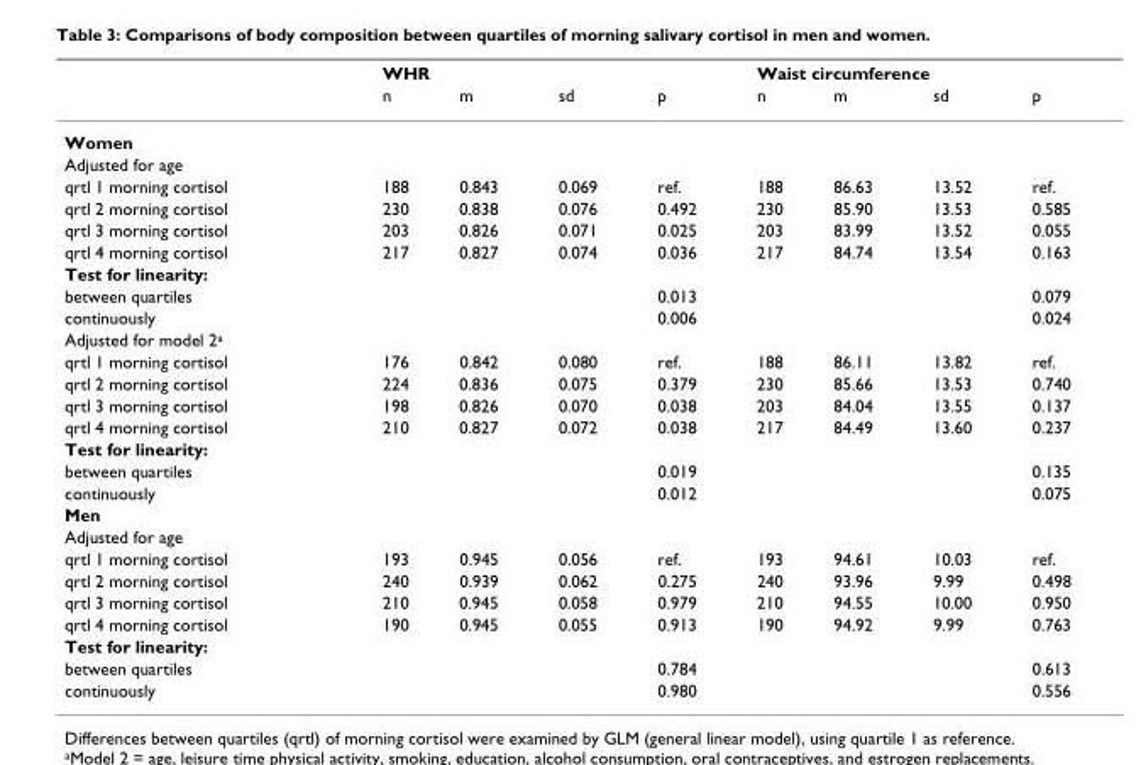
<table><thead><tr><td rowspan="2"></td><td colspan="4">WHR</td><td colspan="4">Waist circumference</td></tr><tr><td>n</td><td>m</td><td>sd</td><td>p</td><td>n</td><td>m</td><td>sd</td><td>p</td></tr></thead><tbody><tr><td colspan="9">Women</td></tr><tr><td colspan="9">Adjusted for age</td></tr><tr><td>qrtl 1 morning cortisol</td><td>188</td><td>0.843</td><td>0.069</td><td>ref.</td><td>188</td><td>86.63</td><td>13.52</td><td>ref.</td></tr><tr><td>qrtl 2 morning cortisol</td><td>230</td><td>0.838</td><td>0.076</td><td>0.492</td><td>230</td><td>85.90</td><td>13.53</td><td>0.585</td></tr><tr><td>qrtl 3 morning cortisol</td><td>203</td><td>0.826</td><td>0.071</td><td>0.025</td><td>203</td><td>83.99</td><td>13.52</td><td>0.055</td></tr><tr><td>qrtl 4 morning cortisol</td><td>217</td><td>0.827</td><td>0.074</td><td>0.036</td><td>217</td><td>84.74</td><td>13.54</td><td>0.163</td></tr><tr><td colspan="9">Test for linearity:</td></tr><tr><td>between quartiles</td><td></td><td></td><td></td><td>0.013</td><td></td><td></td><td></td><td>0.079</td></tr><tr><td>continuously</td><td></td><td></td><td></td><td>0.006</td><td></td><td></td><td></td><td>0.024</td></tr><tr><td colspan="9">Adjusted for model 2<sup>a</sup></td></tr><tr><td>qrtl 1 morning cortisol</td><td>176</td><td>0.842</td><td>0.080</td><td>ref.</td><td>188</td><td>86.11</td><td>13.82</td><td>ref.</td></tr><tr><td>qrtl 2 morning cortisol</td><td>224</td><td>0.836</td><td>0.075</td><td>0.379</td><td>230</td><td>85.66</td><td>13.53</td><td>0.740</td></tr><tr><td>qrtl 3 morning cortisol</td><td>198</td><td>0.826</td><td>0.070</td><td>0.038</td><td>203</td><td>84.04</td><td>13.55</td><td>0.137</td></tr><tr><td>qrtl 4 morning cortisol</td><td>210</td><td>0.827</td><td>0.072</td><td>0.038</td><td>217</td><td>84.49</td><td>13.60</td><td>0.237</td></tr><tr><td colspan="9">Test for linearity:</td></tr><tr><td>between quartiles</td><td></td><td></td><td></td><td>0.019</td><td></td><td></td><td></td><td>0.135</td></tr><tr><td>continuously</td><td></td><td></td><td></td><td>0.012</td><td></td><td></td><td></td><td>0.075</td></tr><tr><td colspan="9">Men</td></tr><tr><td colspan="9">Adjusted for age</td></tr><tr><td>qrtl 1 morning cortisol</td><td>193</td><td>0.945</td><td>0.056</td><td>ref.</td><td>193</td><td>94.61</td><td>10.03</td><td>ref.</td></tr><tr><td>qrtl 2 morning cortisol</td><td>240</td><td>0.939</td><td>0.062</td><td>0.275</td><td>240</td><td>93.96</td><td>9.99</td><td>0.498</td></tr><tr><td>qrtl 3 morning cortisol</td><td>210</td><td>0.945</td><td>0.058</td><td>0.979</td><td>210</td><td>94.55</td><td>10.00</td><td>0.950</td></tr><tr><td>qrtl 4 morning cortisol</td><td>190</td><td>0.945</td><td>0.055</td><td>0.913</td><td>190</td><td>94.92</td><td>9.99</td><td>0.763</td></tr><tr><td colspan="9">Test for linearity:</td></tr><tr><td>between quartiles</td><td></td><td></td><td></td><td>0.784</td><td></td><td></td><td></td><td>0.613</td></tr><tr><td>continuously</td><td></td><td></td><td></td><td>0.980</td><td></td><td></td><td></td><td>0.556</td></tr></tbody></table>